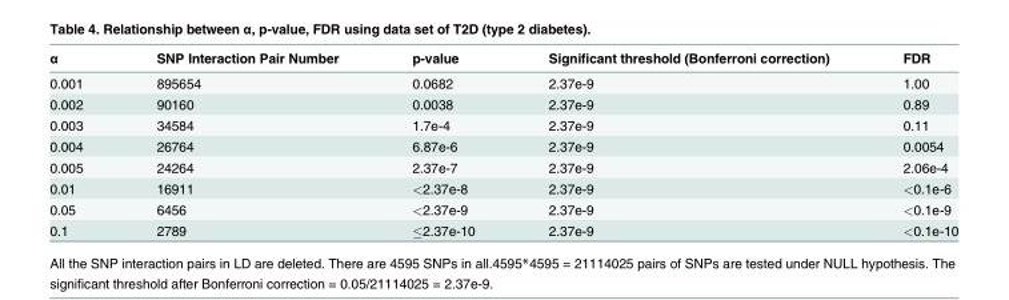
<table><thead><tr><td>α</td><td>SNP Interaction Pair Number</td><td>p-value</td><td>Significant threshold (Bonferroni correction)</td><td>FDR</td></tr></thead><tbody><tr><td>0.001</td><td>895654</td><td>0.0682</td><td>2.37e-9</td><td>1.00</td></tr><tr><td>0.002</td><td>90160</td><td>0.0038</td><td>2.37e-9</td><td>0.89</td></tr><tr><td>0.003</td><td>34584</td><td>1.7e-4</td><td>2.37e-9</td><td>0.11</td></tr><tr><td>0.004</td><td>26764</td><td>6.87e-6</td><td>2.37e-9</td><td>0.0054</td></tr><tr><td>0.005</td><td>24264</td><td>2.37e-7</td><td>2.37e-9</td><td>2.06e-4</td></tr><tr><td>0.01</td><td>16911</td><td>&lt;2.37e-8</td><td>2.37e-9</td><td>&lt;0.1e-6</td></tr><tr><td>0.05</td><td>6456</td><td>&lt;2.37e-9</td><td>2.37e-9</td><td>&lt;0.1e-9</td></tr><tr><td>0.1</td><td>2789</td><td>≤2.37e-10</td><td>2.37e-9</td><td>&lt;0.1e-10</td></tr></tbody></table>